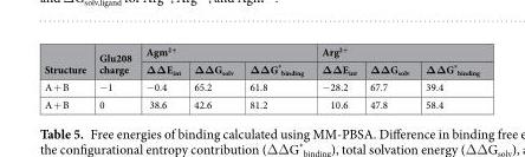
<table><thead><tr><td rowspan="2">Structure</td><td rowspan="2">Glu208 charge</td><td colspan="3">Agm<sup>2+</sup></td><td colspan="3">Arg<sup>2+</sup></td></tr><tr><td>ΔΔE<sub>int</sub></td><td>ΔΔG<sub>solv</sub></td><td>ΔΔG* <sub>binding</sub></td><td>ΔΔE<sub>int</sub></td><td>ΔΔG<sub>solv</sub></td><td>ΔΔG* <sub>binding</sub></td></tr></thead><tbody><tr><td>A + B</td><td>−1</td><td>−0.4</td><td>65.2</td><td>61.8</td><td>−28.2</td><td>67.7</td><td>39.4</td></tr><tr><td>A + B</td><td>0</td><td>38.6</td><td>42.6</td><td>81.2</td><td>10.6</td><td>47.8</td><td>58.4</td></tr></tbody></table>